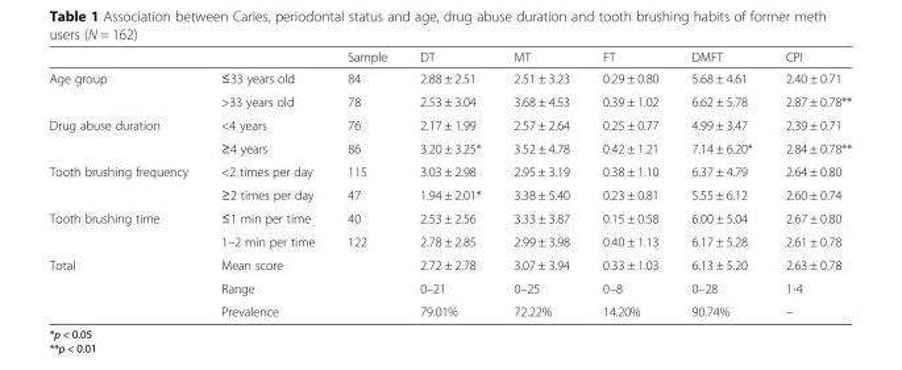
<table><thead><tr><td></td><td></td><td>Sample</td><td>DT</td><td>MT</td><td>FT</td><td>DMFT</td><td>CPI</td></tr></thead><tbody><tr><td rowspan="2">Age group</td><td>≤33 years old</td><td>84</td><td>2.88 ± 2.51</td><td>2.51 ± 3.23</td><td>0.29 ± 0.80</td><td>5.68 ± 4.61</td><td>2.40 ± 0.71</td></tr><tr><td>&gt;33 years old</td><td>78</td><td>2.53 ± 3.04</td><td>3.68 ± 4.53</td><td>0.39 ± 1.02</td><td>6.62 ± 5.78</td><td>2.87 ± 0.78**</td></tr><tr><td rowspan="2">Drug abuse duration</td><td>&lt;4 years</td><td>76</td><td>2.17 ± 1.99</td><td>2.57 ± 2.64</td><td>0.25 ± 0.77</td><td>4.99 ± 3.47</td><td>2.39 ± 0.71</td></tr><tr><td>≥4 years</td><td>86</td><td>3.20 ± 3.25*</td><td>3.52 ± 4.78</td><td>0.42 ± 1.21</td><td>7.14 ± 6.20*</td><td>2.84 ± 0.78**</td></tr><tr><td rowspan="2">Tooth brushing frequency</td><td>&lt;2 times per day</td><td>115</td><td>3.03 ± 2.98</td><td>2.95 ± 3.19</td><td>0.38 ± 1.10</td><td>6.37 ± 4.79</td><td>2.64 ± 0.80</td></tr><tr><td>≥2 times per day</td><td>47</td><td>1.94 ± 2.01*</td><td>3.38 ± 5.40</td><td>0.23 ± 0.81</td><td>5.55 ± 6.12</td><td>2.60 ± 0.74</td></tr><tr><td rowspan="2">Tooth brushing time</td><td>≤1 min per time</td><td>40</td><td>2.53 ± 2.56</td><td>3.33 ± 3.87</td><td>0.15 ± 0.58</td><td>6.00 ± 5.04</td><td>2.67 ± 0.80</td></tr><tr><td>1–2 min per time</td><td>122</td><td>2.78 ± 2.85</td><td>2.99 ± 3.98</td><td>0.40 ± 1.13</td><td>6.17 ± 5.28</td><td>2.61 ± 0.78</td></tr><tr><td rowspan="3">Total</td><td>Mean score</td><td></td><td>2.72 ± 2.78</td><td>3.07 ± 3.94</td><td>0.33 ± 1.03</td><td>6.13 ± 5.20</td><td>2.63 ± 0.78</td></tr><tr><td>Range</td><td></td><td>0–21</td><td>0–25</td><td>0–8</td><td>0–28</td><td>1-4</td></tr><tr><td>Prevalence</td><td></td><td>79.01%</td><td>72.22%</td><td>14.20%</td><td>90.74%</td><td>–</td></tr></tbody></table>